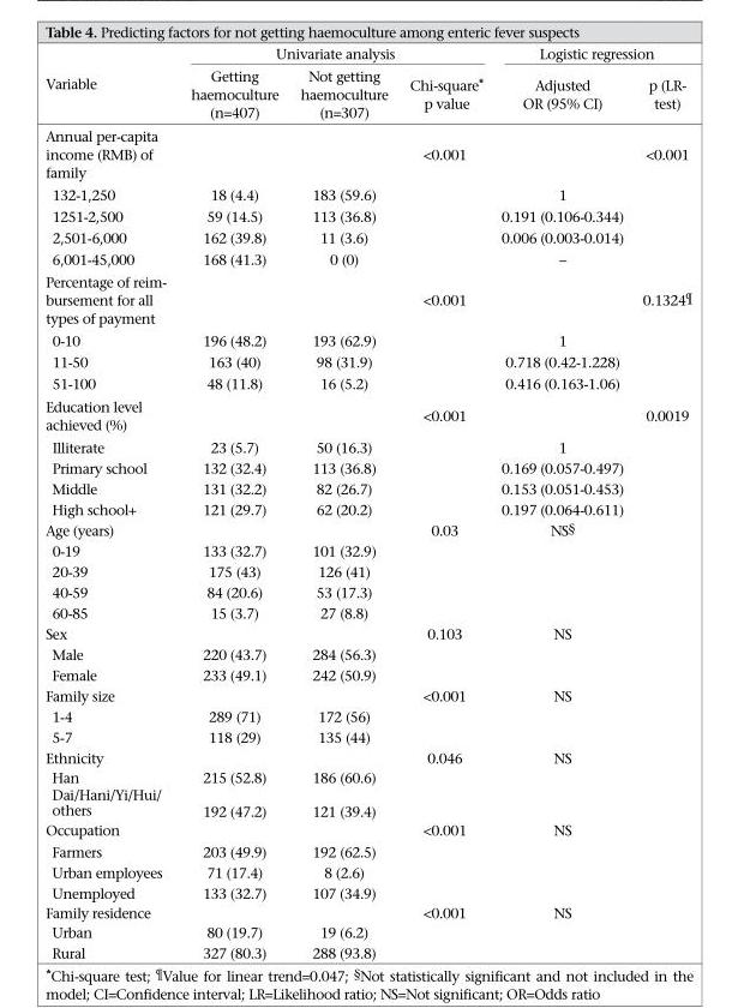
<table><thead><tr><td rowspan="2">Variable</td><td colspan="3">Univariate analysis</td><td colspan="2">Logistic regression</td></tr><tr><td>Getting haemoculture (n=407)</td><td>Not getting haemoculture (n=307)</td><td>Chi-square* p value</td><td>Adjusted OR (95% CI)</td><td>p (LR- test)</td></tr></thead><tbody><tr><td>Annual per-capita income (RMB) of family</td><td></td><td></td><td>&lt;0.001</td><td></td><td>&lt;0.001</td></tr><tr><td>132-1,250</td><td>18 (4.4)</td><td>183 (59.6)</td><td></td><td>1</td><td></td></tr><tr><td>1251-2,500</td><td>59 (14.5)</td><td>113 (36.8)</td><td></td><td>0.191 (0.106-0.344)</td><td></td></tr><tr><td>2,501-6,000</td><td>162 (39.8)</td><td>11 (3.6)</td><td></td><td>0.006 (0.003-0.014)</td><td></td></tr><tr><td>6,001-45,000</td><td>168 (41.3)</td><td>0 (0)</td><td></td><td>−</td><td></td></tr><tr><td>Percentage of reim- bursement for all types of payment</td><td></td><td></td><td>&lt;0.001</td><td></td><td>0.1324¶</td></tr><tr><td>0-10</td><td>196 (48.2)</td><td>193 (62.9)</td><td></td><td>1</td><td></td></tr><tr><td>11-50</td><td>163 (40)</td><td>98 (31.9)</td><td></td><td>0.718 (0.42-1.228)</td><td></td></tr><tr><td>51-100</td><td>48 (11.8)</td><td>16 (5.2)</td><td></td><td>0.416 (0.163-1.06)</td><td></td></tr><tr><td>Education level achieved (%)</td><td></td><td></td><td>&lt;0.001</td><td></td><td>0.0019</td></tr><tr><td>Illiterate</td><td>23 (5.7)</td><td>50 (16.3)</td><td></td><td>1</td><td></td></tr><tr><td>Primary school</td><td>132 (32.4)</td><td>113 (36.8)</td><td></td><td>0.169 (0.057-0.497)</td><td></td></tr><tr><td>Middle</td><td>131 (32.2)</td><td>82 (26.7)</td><td></td><td>0.153 (0.051-0.453)</td><td></td></tr><tr><td>High school+</td><td>121 (29.7)</td><td>62 (20.2)</td><td></td><td>0.197 (0.064-0.611)</td><td></td></tr><tr><td>Age (years)</td><td></td><td></td><td>0.03</td><td>NS§</td><td></td></tr><tr><td>0-19</td><td>133 (32.7)</td><td>101 (32.9)</td><td></td><td></td><td></td></tr><tr><td>20-39</td><td>175 (43)</td><td>126 (41)</td><td></td><td></td><td></td></tr><tr><td>40-59</td><td>84 (20.6)</td><td>53 (17.3)</td><td></td><td></td><td></td></tr><tr><td>60-85</td><td>15 (3.7)</td><td>27 (8.8)</td><td></td><td></td><td></td></tr><tr><td>Sex</td><td></td><td></td><td>0.103</td><td>NS</td><td></td></tr><tr><td>Male</td><td>220 (43.7)</td><td>284 (56.3)</td><td></td><td></td><td></td></tr><tr><td>Female</td><td>233 (49.1)</td><td>242 (50.9)</td><td></td><td></td><td></td></tr><tr><td>Family size</td><td></td><td></td><td>&lt;0.001</td><td>NS</td><td></td></tr><tr><td>1-4</td><td>289 (71)</td><td>172 (56)</td><td></td><td></td><td></td></tr><tr><td>5-7</td><td>118 (29)</td><td>135 (44)</td><td></td><td></td><td></td></tr><tr><td>Ethnicity</td><td></td><td></td><td>0.046</td><td>NS</td><td></td></tr><tr><td>Han</td><td>215 (52.8)</td><td>186 (60.6)</td><td></td><td></td><td></td></tr><tr><td>Dai/Hani/Yi/Hui/ others</td><td>192 (47.2)</td><td>121 (39.4)</td><td></td><td></td><td></td></tr><tr><td>Occupation</td><td></td><td></td><td>&lt;0.001</td><td>NS</td><td></td></tr><tr><td>Farmers</td><td>203 (49.9)</td><td>192 (62.5)</td><td></td><td></td><td></td></tr><tr><td>Urban employees</td><td>71 (17.4)</td><td>8 (2.6)</td><td></td><td></td><td></td></tr><tr><td>Unemployed</td><td>133 (32.7)</td><td>107 (34.9)</td><td></td><td></td><td></td></tr><tr><td>Family residence</td><td></td><td></td><td>&lt;0.001</td><td>NS</td><td></td></tr><tr><td>Urban</td><td>80 (19.7)</td><td>19 (6.2)</td><td></td><td></td><td></td></tr><tr><td>Rural</td><td>327 (80.3)</td><td>288 (93.8)</td><td></td><td></td><td></td></tr></tbody></table>